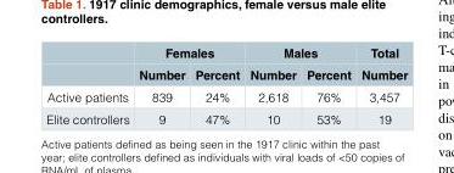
<table><thead><tr><td rowspan="2"></td><td colspan="2">Females</td><td colspan="2">Males</td><td rowspan="2">Total Number</td></tr><tr><td>Number</td><td>Percent</td><td>Number</td><td>Percent</td></tr></thead><tbody><tr><td>Active patients</td><td>839</td><td>24%</td><td>2,618</td><td>76%</td><td>3,457</td></tr><tr><td>Elite controllers</td><td>9</td><td>47%</td><td>10</td><td>53%</td><td>19</td></tr></tbody></table>